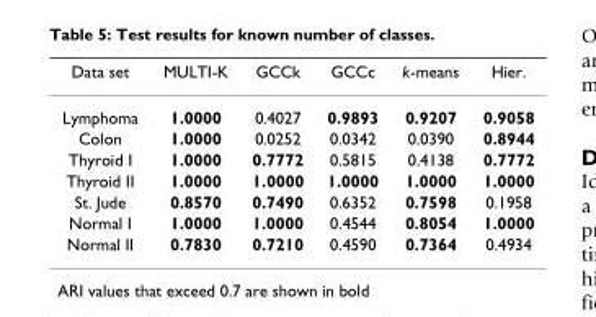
<table><thead><tr><td>Data set</td><td>MULTI-K</td><td>GCCk</td><td>GCCc</td><td>k-means</td><td>Hier.</td></tr></thead><tbody><tr><td>Lymphoma</td><td>1.0000</td><td>0.4027</td><td>0.9893</td><td>0.9207</td><td>0.9058</td></tr><tr><td>Colon</td><td>1.0000</td><td>0.0252</td><td>0.0342</td><td>0.0390</td><td>0.8944</td></tr><tr><td>Thyroid I</td><td>1.0000</td><td>0.7772</td><td>0.5815</td><td>0.4138</td><td>0.7772</td></tr><tr><td>Thyroid II</td><td>1.0000</td><td>1.0000</td><td>1.0000</td><td>1.0000</td><td>1.0000</td></tr><tr><td>St. Jude</td><td>0.8570</td><td>0.7490</td><td>0.6352</td><td>0.7598</td><td>0.1958</td></tr><tr><td>Normal I</td><td>1.0000</td><td>1.0000</td><td>0.4544</td><td>0.8054</td><td>1.0000</td></tr><tr><td>Normal II</td><td>0.7830</td><td>0.7210</td><td>0.4590</td><td>0.7364</td><td>0.4934</td></tr></tbody></table>